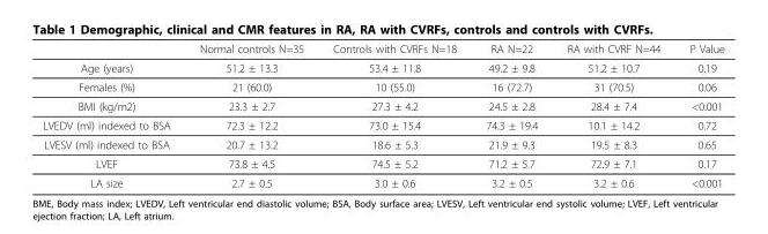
<table><thead><tr><td></td><td>Normal controls N=35</td><td>Controls with CVRFs N=18</td><td>RA N=22</td><td>RA with CVRF N=44</td><td>P Value</td></tr></thead><tbody><tr><td>Age (years)</td><td>51.2 ± 13.3</td><td>53.4 ± 11.8</td><td>49.2 ± 9.8</td><td>51.2 ± 10.7</td><td>0.19</td></tr><tr><td>Females (%)</td><td>21 (60.0)</td><td>10 (55.0)</td><td>16 (72.7)</td><td>31 (70.5)</td><td>0.06</td></tr><tr><td>BMI (kg/m2)</td><td>23.3 ± 2.7</td><td>27.3 ± 4.2</td><td>24.5 ± 2.8</td><td>28.4 ± 7.4</td><td>&lt;0.001</td></tr><tr><td>LVEDV (ml) indexed to BSA</td><td>72.3 ± 12.2</td><td>73.0 ± 15.4</td><td>74.3 ± 19.4</td><td>10.1 ± 14.2</td><td>0.72</td></tr><tr><td>LVESV (ml) indexed to BSA</td><td>20.7 ± 13.2</td><td>18.6 ± 5.3</td><td>21.9 ± 9.3</td><td>19.5 ± 8.3</td><td>0.65</td></tr><tr><td>LVEF</td><td>73.8 ± 4.5</td><td>74.5 ± 5.2</td><td>71.2 ± 5.7</td><td>72.9 ± 7.1</td><td>0.17</td></tr><tr><td>LA size</td><td>2.7 ± 0.5</td><td>3.0 ± 0.6</td><td>3.2 ± 0.5</td><td>3.2 ± 0.6</td><td>&lt;0.001</td></tr></tbody></table>